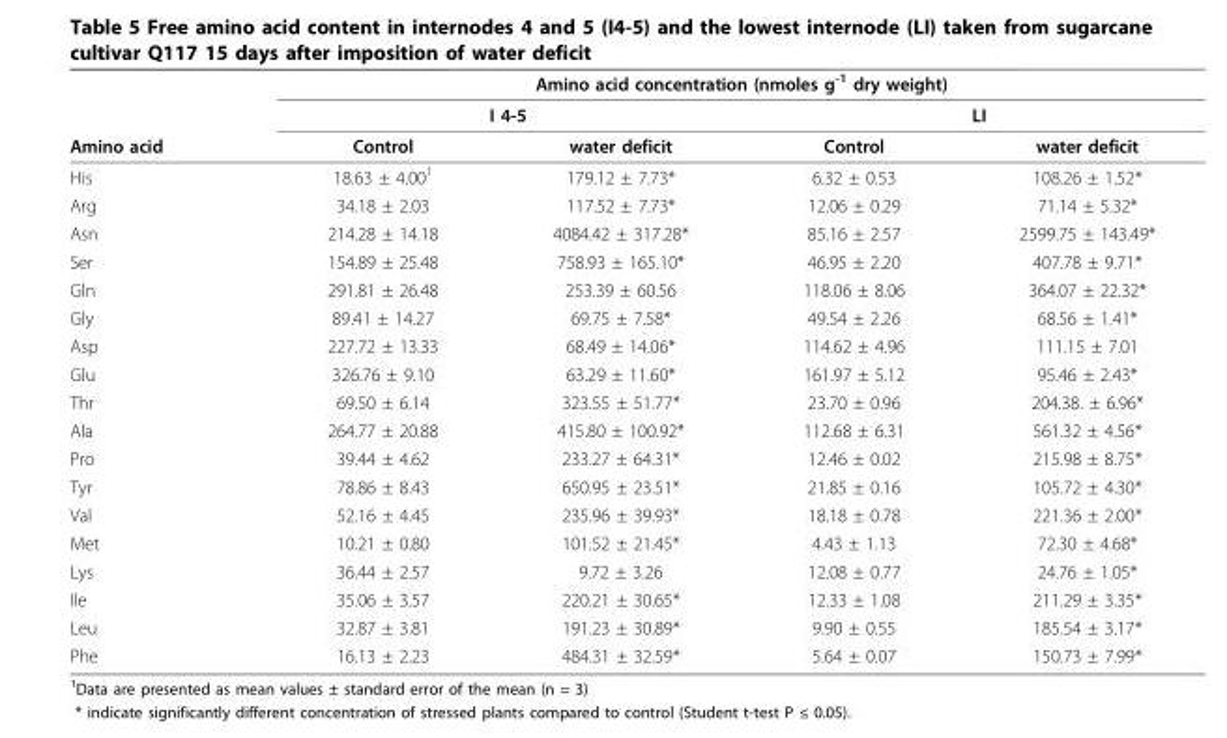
<table><thead><tr><td rowspan="3">Amino acid</td><td colspan="4">Amino acid concentration (nmoles g<sup>-1</sup> dry weight)</td></tr><tr><td colspan="2">I 4-5</td><td colspan="2">LI</td></tr><tr><td>Control</td><td>water deficit</td><td>Control</td><td>water deficit</td></tr></thead><tbody><tr><td>His</td><td>18.63 ± 4.00<sup>1</sup></td><td>179.12 ± 7.73*</td><td>6.32 ± 0.53</td><td>108.26 ± 1.52*</td></tr><tr><td>Arg</td><td>34.18 ± 2.03</td><td>117.52 ± 7.73*</td><td>12.06 ± 0.29</td><td>71.14 ± 5.32*</td></tr><tr><td>Asn</td><td>214.28 ± 14.18</td><td>4084.42 ± 317.28*</td><td>85.16 ± 2.57</td><td>2599.75 ± 143.49*</td></tr><tr><td>Ser</td><td>154.89 ± 25.48</td><td>758.93 ± 165.10*</td><td>46.95 ± 2.20</td><td>407.78 ± 9.71*</td></tr><tr><td>Gln</td><td>291.81 ± 26.48</td><td>253.39 ± 60.56</td><td>118.06 ± 8.06</td><td>364.07 ± 22.32*</td></tr><tr><td>Gly</td><td>89.41 ± 14.27</td><td>69.75 ± 7.58*</td><td>49.54 ± 2.26</td><td>68.56 ± 1.41*</td></tr><tr><td>Asp</td><td>227.72 ± 13.33</td><td>68.49 ± 14.06*</td><td>114.62 ± 4.96</td><td>111.15 ± 7.01</td></tr><tr><td>Glu</td><td>326.76 ± 9.10</td><td>63.29 ± 11.60*</td><td>161.97 ± 5.12</td><td>95.46 ± 2.43*</td></tr><tr><td>Thr</td><td>69.50 ± 6.14</td><td>323.55 ± 51.77*</td><td>23.70 ± 0.96</td><td>204.38. ± 6.96*</td></tr><tr><td>Ala</td><td>264.77 ± 20.88</td><td>415.80 ± 100.92*</td><td>112.68 ± 6.31</td><td>561.32 ± 4.56*</td></tr><tr><td>Pro</td><td>39.44 ± 4.62</td><td>233.27 ± 64.31*</td><td>12.46 ± 0.02</td><td>215.98 ± 8.75*</td></tr><tr><td>Tyr</td><td>78.86 ± 8.43</td><td>650.95 ± 23.51*</td><td>21.85 ± 0.16</td><td>105.72 ± 4.30*</td></tr><tr><td>Val</td><td>52.16 ± 4.45</td><td>235.96 ± 39.93*</td><td>18.18 ± 0.78</td><td>221.36 ± 2.00*</td></tr><tr><td>Met</td><td>10.21 ± 0.80</td><td>101.52 ± 21.45*</td><td>4.43 ± 1.13</td><td>72.30 ± 4.68*</td></tr><tr><td>Lys</td><td>36.44 ± 2.57</td><td>9.72 ± 3.26</td><td>12.08 ± 0.77</td><td>24.76 ± 1.05*</td></tr><tr><td>Ile</td><td>35.06 ± 3.57</td><td>220.21 ± 30.65*</td><td>12.33 ± 1.08</td><td>211.29 ± 3.35*</td></tr><tr><td>Leu</td><td>32.87 ± 3.81</td><td>191.23 ± 30.89*</td><td>9.90 ± 0.55</td><td>185.54 ± 3.17*</td></tr><tr><td>Phe</td><td>16.13 ± 2.23</td><td>484.31 ± 32.59*</td><td>5.64 ± 0.07</td><td>150.73 ± 7.99*</td></tr></tbody></table>